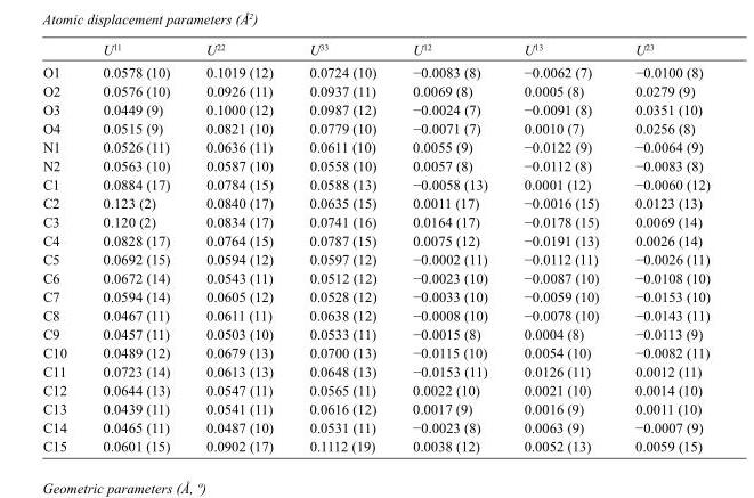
<table><thead><tr><td></td><td>U<sup>11</sup></td><td>U<sup>22</sup></td><td>U<sup>33</sup></td><td>U<sup>12</sup></td><td>U<sup>13</sup></td><td>U<sup>23</sup></td></tr></thead><tbody><tr><td>O1</td><td>0.0578 (10)</td><td>0.1019 (12)</td><td>0.0724 (10)</td><td>−0.0083 (8)</td><td>−0.0062 (7)</td><td>−0.0100 (8)</td></tr><tr><td>O2</td><td>0.0576 (10)</td><td>0.0926 (11)</td><td>0.0937 (11)</td><td>0.0069 (8)</td><td>0.0005 (8)</td><td>0.0279 (9)</td></tr><tr><td>O3</td><td>0.0449 (9)</td><td>0.1000 (12)</td><td>0.0987 (12)</td><td>−0.0024 (7)</td><td>−0.0091 (8)</td><td>0.0351 (10)</td></tr><tr><td>O4</td><td>0.0515 (9)</td><td>0.0821 (10)</td><td>0.0779 (10)</td><td>−0.0071 (7)</td><td>0.0010 (7)</td><td>0.0256 (8)</td></tr><tr><td>N1</td><td>0.0526 (11)</td><td>0.0636 (11)</td><td>0.0611 (10)</td><td>0.0055 (9)</td><td>−0.0122 (9)</td><td>−0.0064 (9)</td></tr><tr><td>N2</td><td>0.0563 (10)</td><td>0.0587 (10)</td><td>0.0558 (10)</td><td>0.0057 (8)</td><td>−0.0112 (8)</td><td>−0.0083 (8)</td></tr><tr><td>C1</td><td>0.0884 (17)</td><td>0.0784 (15)</td><td>0.0588 (13)</td><td>−0.0058 (13)</td><td>0.0001 (12)</td><td>−0.0060 (12)</td></tr><tr><td>C2</td><td>0.123 (2)</td><td>0.0840 (17)</td><td>0.0635 (15)</td><td>0.0011 (17)</td><td>−0.0016 (15)</td><td>0.0123 (13)</td></tr><tr><td>C3</td><td>0.120 (2)</td><td>0.0834 (17)</td><td>0.0741 (16)</td><td>0.0164 (17)</td><td>−0.0178 (15)</td><td>0.0069 (14)</td></tr><tr><td>C4</td><td>0.0828 (17)</td><td>0.0764 (15)</td><td>0.0787 (15)</td><td>0.0075 (12)</td><td>−0.0191 (13)</td><td>0.0026 (14)</td></tr><tr><td>C5</td><td>0.0692 (15)</td><td>0.0594 (12)</td><td>0.0597 (12)</td><td>−0.0002 (11)</td><td>−0.0112 (11)</td><td>−0.0026 (11)</td></tr><tr><td>C6</td><td>0.0672 (14)</td><td>0.0543 (11)</td><td>0.0512 (12)</td><td>−0.0023 (10)</td><td>−0.0087 (10)</td><td>−0.0108 (10)</td></tr><tr><td>C7</td><td>0.0594 (14)</td><td>0.0605 (12)</td><td>0.0528 (12)</td><td>−0.0033 (10)</td><td>−0.0059 (10)</td><td>−0.0153 (10)</td></tr><tr><td>C8</td><td>0.0467 (11)</td><td>0.0611 (11)</td><td>0.0638 (12)</td><td>−0.0008 (10)</td><td>−0.0078 (10)</td><td>−0.0143 (11)</td></tr><tr><td>C9</td><td>0.0457 (11)</td><td>0.0503 (10)</td><td>0.0533 (11)</td><td>−0.0015 (8)</td><td>0.0004 (8)</td><td>−0.0113 (9)</td></tr><tr><td>C10</td><td>0.0489 (12)</td><td>0.0679 (13)</td><td>0.0700 (13)</td><td>−0.0115 (10)</td><td>0.0054 (10)</td><td>−0.0082 (11)</td></tr><tr><td>C11</td><td>0.0723 (14)</td><td>0.0613 (13)</td><td>0.0648 (13)</td><td>−0.0153 (11)</td><td>0.0126 (11)</td><td>0.0012 (11)</td></tr><tr><td>C12</td><td>0.0644 (13)</td><td>0.0547 (11)</td><td>0.0565 (11)</td><td>0.0022 (10)</td><td>0.0021 (10)</td><td>0.0014 (10)</td></tr><tr><td>C13</td><td>0.0439 (11)</td><td>0.0541 (11)</td><td>0.0616 (12)</td><td>0.0017 (9)</td><td>0.0016 (9)</td><td>0.0011 (10)</td></tr><tr><td>C14</td><td>0.0465 (11)</td><td>0.0487 (10)</td><td>0.0531 (11)</td><td>−0.0023 (8)</td><td>0.0063 (9)</td><td>−0.0007 (9)</td></tr><tr><td>C15</td><td>0.0601 (15)</td><td>0.0902 (17)</td><td>0.1112 (19)</td><td>0.0038 (12)</td><td>0.0052 (13)</td><td>0.0059 (15)</td></tr></tbody></table>